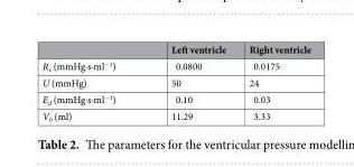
<table><thead><tr><td></td><td>Left ventricle</td><td>Right ventricle</td></tr></thead><tbody><tr><td>R<sub>v</sub> (mmHg·s·ml<sup>−1</sup>)</td><td>0.0800</td><td>0.0175</td></tr><tr><td>U (mmHg)</td><td>50</td><td>24</td></tr><tr><td>E<sub>d</sub> (mmHg·s·ml<sup>−1</sup>)</td><td>0.10</td><td>0.03</td></tr><tr><td>V<sub>0</sub> (ml)</td><td>11.29</td><td>3.33</td></tr></tbody></table>